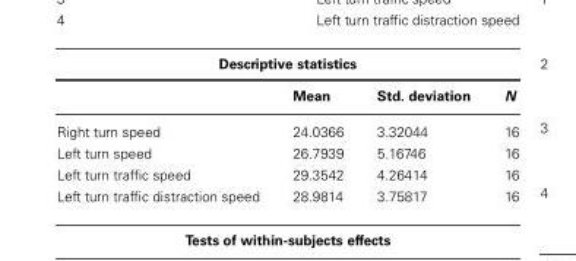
<table><thead><tr><td colspan="4">Descriptive statistics</td></tr><tr><td></td><td>Mean</td><td>Std. deviation</td><td>N</td></tr></thead><tbody><tr><td>Right turn speed</td><td>24.0366</td><td>3.32044</td><td>16</td></tr><tr><td>Left turn speed</td><td>26.7939</td><td>5.16746</td><td>16</td></tr><tr><td>Left turn traffic speed</td><td>29.3542</td><td>4.26414</td><td>16</td></tr><tr><td>Left turn traffic distraction speed</td><td>28.9814</td><td>3.75817</td><td>16</td></tr></tbody></table>